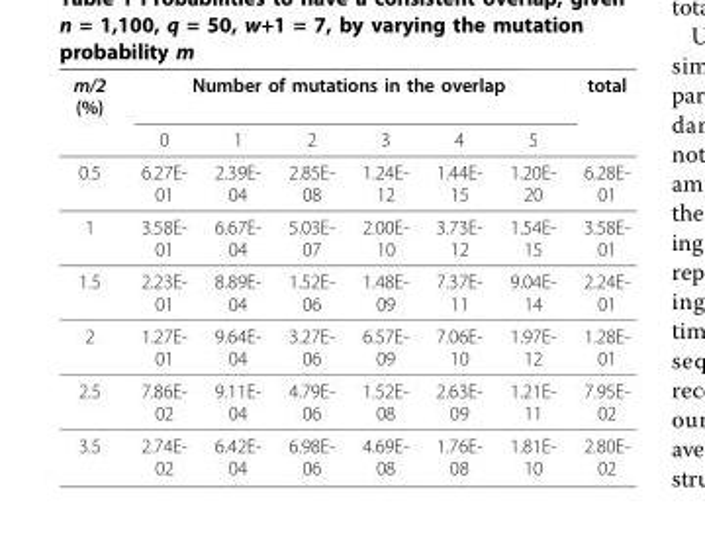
<table><thead><tr><td rowspan="2">m/2 (%)</td><td colspan="6">Number of mutations in the overlap</td><td rowspan="2">total</td></tr><tr><td>0</td><td>1</td><td>2</td><td>3</td><td>4</td><td>5</td></tr></thead><tbody><tr><td>0.5</td><td>6.27E- 01</td><td>2.39E- 04</td><td>2.85E- 08</td><td>1.24E- 12</td><td>1.44E- 15</td><td>1.20E- 20</td><td>6.28E- 01</td></tr><tr><td>1</td><td>3.58E- 01</td><td>6.67E- 04</td><td>5.03E- 07</td><td>2.00E- 10</td><td>3.73E- 12</td><td>1.54E- 15</td><td>3.58E- 01</td></tr><tr><td>1.5</td><td>2.23E- 01</td><td>8.89E- 04</td><td>1.52E- 06</td><td>1.48E- 09</td><td>7.37E- 11</td><td>9.04E- 14</td><td>2.24E- 01</td></tr><tr><td>2</td><td>1.27E- 01</td><td>9.64E- 04</td><td>3.27E- 06</td><td>6.57E- 09</td><td>7.06E- 10</td><td>1.97E- 12</td><td>1.28E- 01</td></tr><tr><td>2.5</td><td>7.86E- 02</td><td>9.11E- 04</td><td>4.79E- 06</td><td>1.52E- 08</td><td>2.63E- 09</td><td>1.21E- 11</td><td>7.95E- 02</td></tr><tr><td>3.5</td><td>2.74E- 02</td><td>6.42E- 04</td><td>6.98E- 06</td><td>4.69E- 08</td><td>1.76E- 08</td><td>1.81E- 10</td><td>2.80E- 02</td></tr></tbody></table>